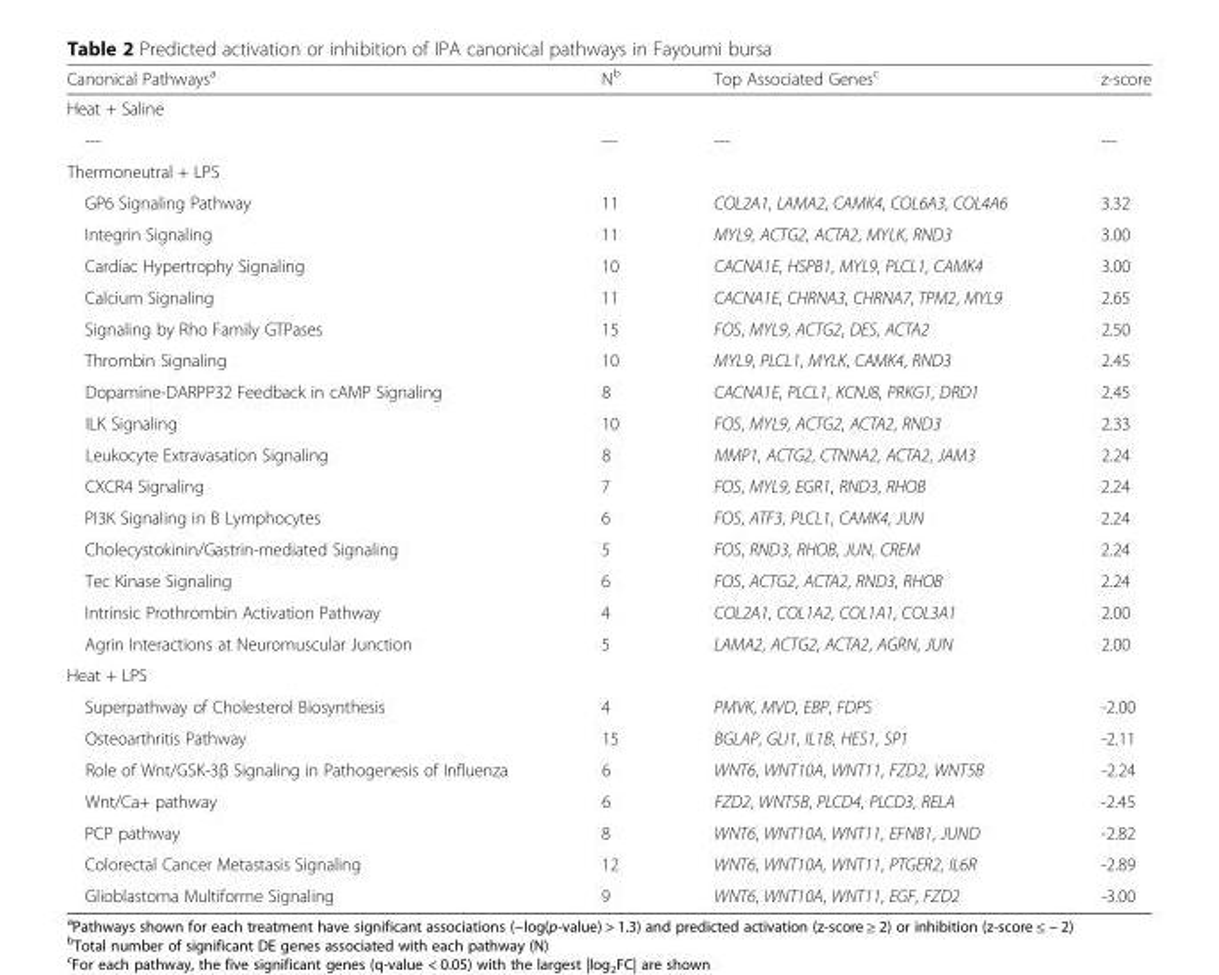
<table><thead><tr><td>Canonical Pathways<sup>a</sup></td><td>N<sup>b</sup></td><td>Top Associated Genes<sup>c</sup></td><td>z-score</td></tr></thead><tbody><tr><td colspan="4">Heat + Saline</td></tr><tr><td>---</td><td>---</td><td>---</td><td>---</td></tr><tr><td colspan="4">Thermoneutral + LPS</td></tr><tr><td>GP6 Signaling Pathway</td><td>11</td><td>COL2A1, LAMA2, CAMK4, COL6A3, COL4A6</td><td>3.32</td></tr><tr><td>Integrin Signaling</td><td>11</td><td>MYL9, ACTG2, ACTA2, MYLK, RND3</td><td>3.00</td></tr><tr><td>Cardiac Hypertrophy Signaling</td><td>10</td><td>CACNA1E, HSPB1, MYL9, PLCL1, CAMK4</td><td>3.00</td></tr><tr><td>Calcium Signaling</td><td>11</td><td>CACNA1E, CHRNA3, CHRNA7, TPM2, MYL9</td><td>2.65</td></tr><tr><td>Signaling by Rho Family GTPases</td><td>15</td><td>FOS, MYL9, ACTG2, DES, ACTA2</td><td>2.50</td></tr><tr><td>Thrombin Signaling</td><td>10</td><td>MYL9, PLCL1, MYLK, CAMK4, RND3</td><td>2.45</td></tr><tr><td>Dopamine-DARPP32 Feedback in cAMP Signaling</td><td>8</td><td>CACNA1E, PLCL1, KCNJ8, PRKG1, DRD1</td><td>2.45</td></tr><tr><td>ILK Signaling</td><td>10</td><td>FOS, MYL9, ACTG2, ACTA2, RND3</td><td>2.33</td></tr><tr><td>Leukocyte Extravasation Signaling</td><td>8</td><td>MMP1, ACTG2, CTNNA2, ACTA2, JAM3</td><td>2.24</td></tr><tr><td>CXCR4 Signaling</td><td>7</td><td>FOS, MYL9, EGR1, RND3, RHOB</td><td>2.24</td></tr><tr><td>PI3K Signaling in B Lymphocytes</td><td>6</td><td>FOS, ATF3, PLCL1, CAMK4, JUN</td><td>2.24</td></tr><tr><td>Cholecystokinin/Gastrin-mediated Signaling</td><td>5</td><td>FOS, RND3, RHOB, JUN, CREM</td><td>2.24</td></tr><tr><td>Tec Kinase Signaling</td><td>6</td><td>FOS, ACTG2, ACTA2, RND3, RHOB</td><td>2.24</td></tr><tr><td>Intrinsic Prothrombin Activation Pathway</td><td>4</td><td>COL2A1, COL1A2, COL1A1, COL3A1</td><td>2.00</td></tr><tr><td>Agrin Interactions at Neuromuscular Junction</td><td>5</td><td>LAMA2, ACTG2, ACTA2, AGRN, JUN</td><td>2.00</td></tr><tr><td colspan="4">Heat + LPS</td></tr><tr><td>Superpathway of Cholesterol Biosynthesis</td><td>4</td><td>PMVK, MVD, EBP, FDPS</td><td>-2.00</td></tr><tr><td>Osteoarthritis Pathway</td><td>15</td><td>BGLAP, GLI1, IL1B, HES1, SP1</td><td>-2.11</td></tr><tr><td>Role of Wnt/GSK-3β Signaling in Pathogenesis of Influenza</td><td>6</td><td>WNT6, WNT10A, WNT11, FZD2, WNT5B</td><td>-2.24</td></tr><tr><td>Wnt/Ca+ pathway</td><td>6</td><td>FZD2, WNT5B, PLCD4, PLCD3, RELA</td><td>-2.45</td></tr><tr><td>PCP pathway</td><td>8</td><td>WNT6, WNT10A, WNT11, EFNB1, JUND</td><td>-2.82</td></tr><tr><td>Colorectal Cancer Metastasis Signaling</td><td>12</td><td>WNT6, WNT10A, WNT11, PTGER2, IL6R</td><td>-2.89</td></tr><tr><td>Glioblastoma Multiforme Signaling</td><td>9</td><td>WNT6, WNT10A, WNT11, EGF, FZD2</td><td>-3.00</td></tr></tbody></table>